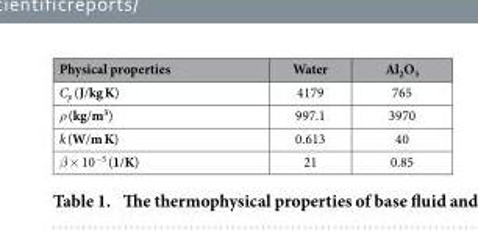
<table><thead><tr><td>Physical properties</td><td>Water</td><td>Al<sub>2</sub>O<sub>3</sub></td></tr></thead><tbody><tr><td>C<sub>p</sub> (J/kg K)</td><td>4179</td><td>765</td></tr><tr><td>ρ (kg/m<sup>3</sup>)</td><td>997.1</td><td>3970</td></tr><tr><td>k (W/m K)</td><td>0.613</td><td>40</td></tr><tr><td>β × 10<sup>−5</sup> (1/K)</td><td>21</td><td>0.85</td></tr></tbody></table>